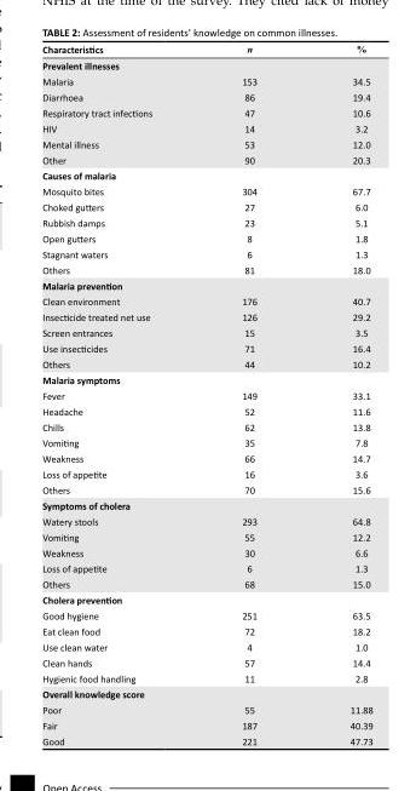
<table><thead><tr><td>Characteristics</td><td>n</td><td>%</td></tr></thead><tbody><tr><td colspan="3">Prevalent illnesses</td></tr><tr><td>Malaria</td><td>153</td><td>34.5</td></tr><tr><td>Diarrhoea</td><td>86</td><td>19.4</td></tr><tr><td>Respiratory tract infections</td><td>47</td><td>10.6</td></tr><tr><td>HIV</td><td>14</td><td>3.2</td></tr><tr><td>Mental illness</td><td>53</td><td>12.0</td></tr><tr><td>Other</td><td>90</td><td>20.3</td></tr><tr><td colspan="3">Causes of malaria</td></tr><tr><td>Mosquito bites</td><td>304</td><td>67.7</td></tr><tr><td>Choked gutters</td><td>27</td><td>6.0</td></tr><tr><td>Rubbish damps</td><td>23</td><td>5.1</td></tr><tr><td>Open gutters</td><td>8</td><td>1.8</td></tr><tr><td>Stagnant waters</td><td>6</td><td>1.3</td></tr><tr><td>Others</td><td>81</td><td>18.0</td></tr><tr><td colspan="3">Malaria prevention</td></tr><tr><td>Clean environment</td><td>176</td><td>40.7</td></tr><tr><td>Insecticide treated net use</td><td>126</td><td>29.2</td></tr><tr><td>Screen entrances</td><td>15</td><td>3.5</td></tr><tr><td>Use insecticides</td><td>71</td><td>16.4</td></tr><tr><td>Others</td><td>44</td><td>10.2</td></tr><tr><td colspan="3">Malaria symptoms</td></tr><tr><td>Fever</td><td>149</td><td>33.1</td></tr><tr><td>Headache</td><td>52</td><td>11.6</td></tr><tr><td>Chills</td><td>62</td><td>13.8</td></tr><tr><td>Vomiting</td><td>35</td><td>7.8</td></tr><tr><td>Weakness</td><td>66</td><td>14.7</td></tr><tr><td>Loss of appetite</td><td>16</td><td>3.6</td></tr><tr><td>Others</td><td>70</td><td>15.6</td></tr><tr><td colspan="3">Symptoms of cholera</td></tr><tr><td>Watery stools</td><td>293</td><td>64.8</td></tr><tr><td>Vomiting</td><td>55</td><td>12.2</td></tr><tr><td>Weakness</td><td>30</td><td>6.6</td></tr><tr><td>Loss of appetite</td><td>6</td><td>1.3</td></tr><tr><td>Others</td><td>68</td><td>15.0</td></tr><tr><td colspan="3">Cholera prevention</td></tr><tr><td>Good hygiene</td><td>251</td><td>63.5</td></tr><tr><td>Eat clean food</td><td>72</td><td>18.2</td></tr><tr><td>Use clean water</td><td>4</td><td>1.0</td></tr><tr><td>Clean hands</td><td>57</td><td>14.4</td></tr><tr><td>Hygienic food handling</td><td>11</td><td>2.8</td></tr><tr><td colspan="3">Overall knowledge score</td></tr><tr><td>Poor</td><td>55</td><td>11.88</td></tr><tr><td>Fair</td><td>187</td><td>40.39</td></tr><tr><td>Good</td><td>221</td><td>47.73</td></tr></tbody></table>